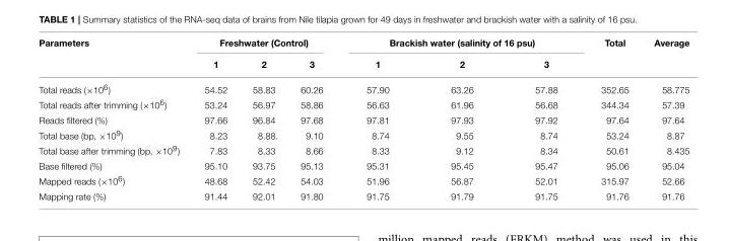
<table><thead><tr><td rowspan="2">Parameters</td><td colspan="3">Freshwater (Control)</td><td colspan="3">Brackish water (salinity of 16 psu)</td><td rowspan="2">Total</td><td rowspan="2">Average</td></tr><tr><td>1</td><td>2</td><td>3</td><td>1</td><td>2</td><td>3</td></tr></thead><tbody><tr><td>Total reads (×10<sup>6</sup>)</td><td>54.52</td><td>58.83</td><td>60.26</td><td>57.90</td><td>63.26</td><td>57.88</td><td>352.65</td><td>58.775</td></tr><tr><td>Total reads after trimming (×10<sup>6</sup>)</td><td>53.24</td><td>56.97</td><td>58.86</td><td>56.63</td><td>61.96</td><td>56.68</td><td>344.34</td><td>57.39</td></tr><tr><td>Reads filtered (%)</td><td>97.66</td><td>96.84</td><td>97.68</td><td>97.81</td><td>97.93</td><td>97.92</td><td>97.64</td><td>97.64</td></tr><tr><td>Total base (bp, ×10<sup>9</sup>)</td><td>8.23</td><td>8.88.</td><td>9.10</td><td>8.74</td><td>9.55</td><td>8.74</td><td>53.24</td><td>8.87</td></tr><tr><td>Total base after trimming (bp, ×10<sup>9</sup>)</td><td>7.83</td><td>8.33</td><td>8.66</td><td>8.33</td><td>9.12</td><td>8.34</td><td>50.61</td><td>8.435</td></tr><tr><td>Base filtered (%)</td><td>95.10</td><td>93.75</td><td>95.13</td><td>95.31</td><td>95.45</td><td>95.47</td><td>95.06</td><td>95.04</td></tr><tr><td>Mapped reads (×10<sup>6</sup>)</td><td>48.68</td><td>52.42</td><td>54.03</td><td>51.96</td><td>56.87</td><td>52.01</td><td>315.97</td><td>52.66</td></tr><tr><td>Mapping rate (%)</td><td>91.44</td><td>92.01</td><td>91.80</td><td>91.75</td><td>91.79</td><td>91.75</td><td>91.76</td><td>91.76</td></tr></tbody></table>